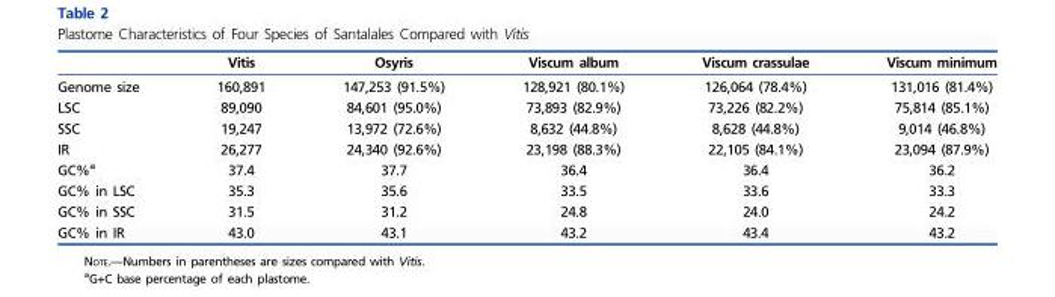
<table><thead><tr><td></td><td>Vitis</td><td>Osyris</td><td>Viscum album</td><td>Viscum crassulae</td><td>Viscum minimum</td></tr></thead><tbody><tr><td>Genome size</td><td>160,891</td><td>147,253 (91.5%)</td><td>128,921 (80.1%)</td><td>126,064 (78.4%)</td><td>131,016 (81.4%)</td></tr><tr><td>LSC</td><td>89,090</td><td>84,601 (95.0%)</td><td>73,893 (82.9%)</td><td>73,226 (82.2%)</td><td>75,814 (85.1%)</td></tr><tr><td>SSC</td><td>19,247</td><td>13,972 (72.6%)</td><td>8,632 (44.8%)</td><td>8,628 (44.8%)</td><td>9,014 (46.8%)</td></tr><tr><td>IR</td><td>26,277</td><td>24,340 (92.6%)</td><td>23,198 (88.3%)</td><td>22,105 (84.1%)</td><td>23,094 (87.9%)</td></tr><tr><td>GC%<sup>a</sup></td><td>37.4</td><td>37.7</td><td>36.4</td><td>36.4</td><td>36.2</td></tr><tr><td>GC% in LSC</td><td>35.3</td><td>35.6</td><td>33.5</td><td>33.6</td><td>33.3</td></tr><tr><td>GC% in SSC</td><td>31.5</td><td>31.2</td><td>24.8</td><td>24.0</td><td>24.2</td></tr><tr><td>GC% in IR</td><td>43.0</td><td>43.1</td><td>43.2</td><td>43.4</td><td>43.2</td></tr></tbody></table>